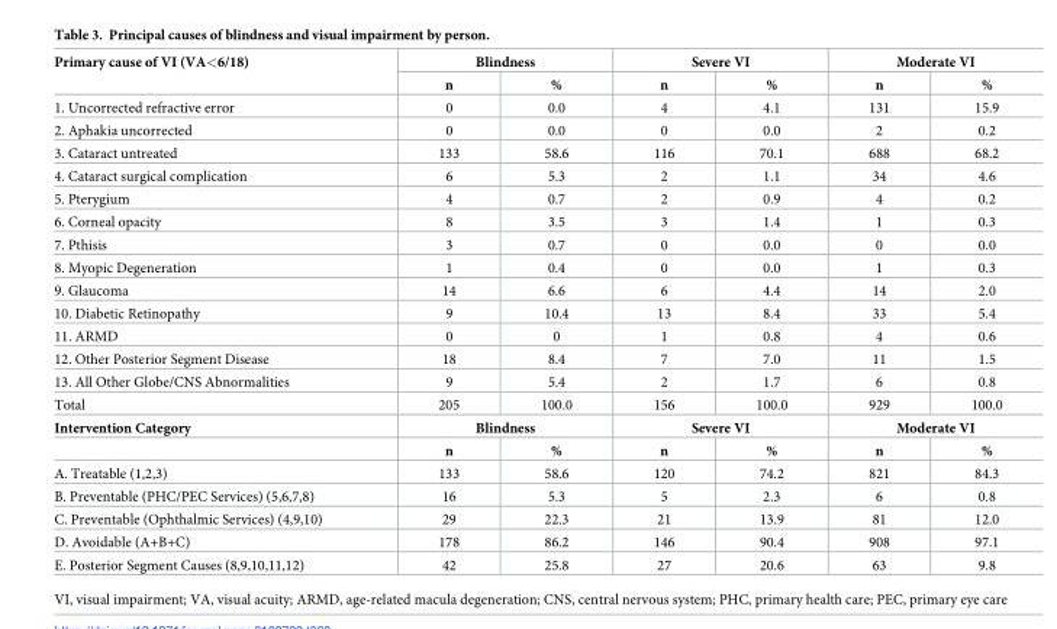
<table><tbody><tr><td rowspan="2">Primary cause of VI (VA&lt;6/18)</td><td colspan="2">Blindness</td><td colspan="2">Severe VI</td><td colspan="2">Moderate VI</td></tr><tr><td>n</td><td>%</td><td>n</td><td>%</td><td>n</td><td>%</td></tr><tr><td>1. Uncorrected refractive error</td><td>0</td><td>0.0</td><td>4</td><td>4.1</td><td>131</td><td>15.9</td></tr><tr><td>2. Aphakia uncorrected</td><td>0</td><td>0.0</td><td>0</td><td>0.0</td><td>2</td><td>0.2</td></tr><tr><td>3. Cataract untreated</td><td>133</td><td>58.6</td><td>116</td><td>70.1</td><td>688</td><td>68.2</td></tr><tr><td>4. Cataract surgical complication</td><td>6</td><td>5.3</td><td>2</td><td>1.1</td><td>34</td><td>4.6</td></tr><tr><td>5. Pterygium</td><td>4</td><td>0.7</td><td>2</td><td>0.9</td><td>4</td><td>0.2</td></tr><tr><td>6. Corneal opacity</td><td>8</td><td>3.5</td><td>3</td><td>1.4</td><td>1</td><td>0.3</td></tr><tr><td>7. Pthisis</td><td>3</td><td>0.7</td><td>0</td><td>0.0</td><td>0</td><td>0.0</td></tr><tr><td>8. Myopic Degeneration</td><td>1</td><td>0.4</td><td>0</td><td>0.0</td><td>1</td><td>0.3</td></tr><tr><td>9. Glaucoma</td><td>14</td><td>6.6</td><td>6</td><td>4.4</td><td>14</td><td>2.0</td></tr><tr><td>10. Diabetic Retinopathy</td><td>9</td><td>10.4</td><td>13</td><td>8.4</td><td>33</td><td>5.4</td></tr><tr><td>11. ARMD</td><td>0</td><td>0</td><td>1</td><td>0.8</td><td>4</td><td>0.6</td></tr><tr><td>12. Other Posterior Segment Disease</td><td>18</td><td>8.4</td><td>7</td><td>7.0</td><td>11</td><td>1.5</td></tr><tr><td>13. All Other Globe/CNS Abnormalities</td><td>9</td><td>5.4</td><td>2</td><td>1.7</td><td>6</td><td>0.8</td></tr><tr><td>Total</td><td>205</td><td>100.0</td><td>156</td><td>100.0</td><td>929</td><td>100.0</td></tr><tr><td rowspan="2">Intervention Category</td><td colspan="2">Blindness</td><td colspan="2">Severe VI</td><td colspan="2">Moderate VI</td></tr><tr><td>n</td><td>%</td><td>n</td><td>%</td><td>n</td><td>%</td></tr><tr><td>A. Treatable (1,2,3)</td><td>133</td><td>58.6</td><td>120</td><td>74.2</td><td>821</td><td>84.3</td></tr><tr><td>B. Preventable (PHC/PEC Services) (5,6,7,8)</td><td>16</td><td>5.3</td><td>5</td><td>2.3</td><td>6</td><td>0.8</td></tr><tr><td>C. Preventable (Ophthalmic Services) (4,9,10)</td><td>29</td><td>22.3</td><td>21</td><td>13.9</td><td>81</td><td>12.0</td></tr><tr><td>D. Avoidable (A+B+C)</td><td>178</td><td>86.2</td><td>146</td><td>90.4</td><td>908</td><td>97.1</td></tr><tr><td>E. Posterior Segment Causes (8,9,10,11,12)</td><td>42</td><td>25.8</td><td>27</td><td>20.6</td><td>63</td><td>9.8</td></tr></tbody></table>